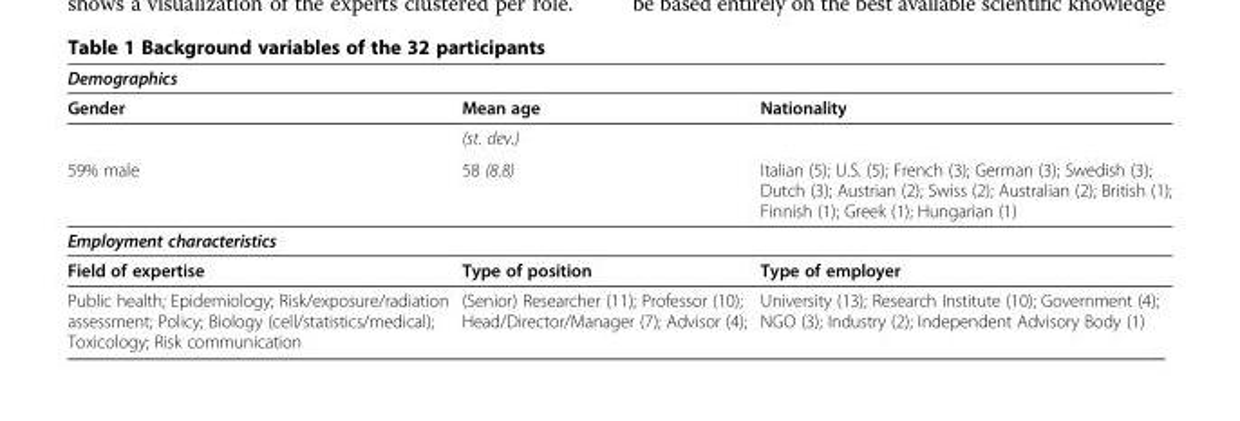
<table><thead><tr><td colspan="3">Demographics</td></tr><tr><td>Gender</td><td>Mean age</td><td>Nationality</td></tr></thead><tbody><tr><td></td><td>(st. dev.)</td><td></td></tr><tr><td>59% male</td><td>58 (8.8)</td><td>Italian (5); U.S. (5); French (3); German (3); Swedish (3); Dutch (3); Austrian (2); Swiss (2); Australian (2); British (1); Finnish (1); Greek (1); Hungarian (1)</td></tr><tr><td colspan="3">Employment characteristics</td></tr><tr><td>Field of expertise</td><td>Type of position</td><td>Type of employer</td></tr><tr><td>Public health; Epidemiology; Risk/exposure/radiation assessment; Policy; Biology (cell/statistics/medical); Toxicology; Risk communication</td><td>(Senior) Researcher (11); Professor (10); Head/Director/Manager (7); Advisor (4);</td><td>University (13); Research Institute (10); Government (4); NGO (3); Industry (2); Independent Advisory Body (1)</td></tr></tbody></table>